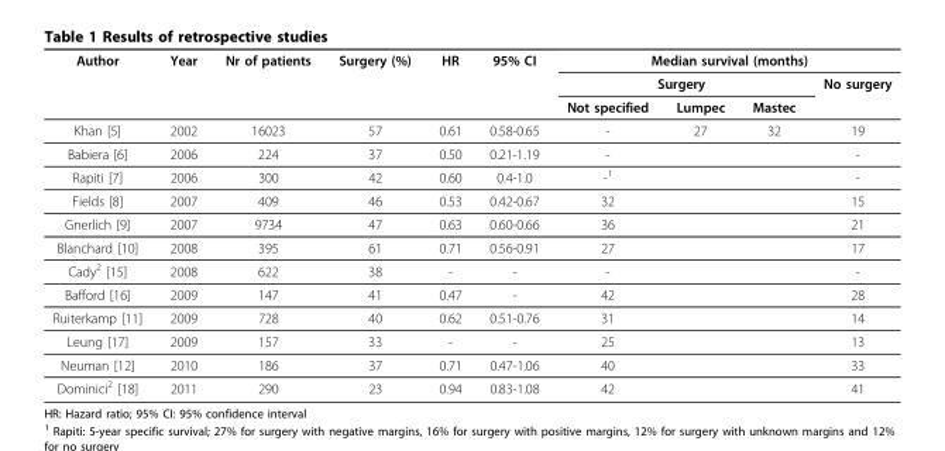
<table><thead><tr><td rowspan="3">Author</td><td rowspan="3">Year</td><td rowspan="3">Nr of patients</td><td rowspan="3">Surgery (%)</td><td rowspan="3">HR</td><td rowspan="3">95% CI</td><td colspan="4">Median survival (months)</td></tr><tr><td colspan="3">Surgery</td><td rowspan="2">No surgery</td></tr><tr><td>Not specified</td><td>Lumpec</td><td>Mastec</td></tr></thead><tbody><tr><td>Khan [5]</td><td>2002</td><td>16023</td><td>57</td><td>0.61</td><td>0.58-0.65</td><td>-</td><td>27</td><td>32</td><td>19</td></tr><tr><td>Babiera [6]</td><td>2006</td><td>224</td><td>37</td><td>0.50</td><td>0.21-1.19</td><td>-</td><td></td><td></td><td>-</td></tr><tr><td>Rapiti [7]</td><td>2006</td><td>300</td><td>42</td><td>0.60</td><td>0.4-1.0</td><td>-<sup>1</sup></td><td></td><td></td><td>-</td></tr><tr><td>Fields [8]</td><td>2007</td><td>409</td><td>46</td><td>0.53</td><td>0.42-0.67</td><td>32</td><td></td><td></td><td>15</td></tr><tr><td>Gnerlich [9]</td><td>2007</td><td>9734</td><td>47</td><td>0.63</td><td>0.60-0.66</td><td>36</td><td></td><td></td><td>21</td></tr><tr><td>Blanchard [10]</td><td>2008</td><td>395</td><td>61</td><td>0.71</td><td>0.56-0.91</td><td>27</td><td></td><td></td><td>17</td></tr><tr><td>Cady<sup>2</sup> [15]</td><td>2008</td><td>622</td><td>38</td><td>-</td><td>-</td><td>-</td><td></td><td></td><td>-</td></tr><tr><td>Bafford [16]</td><td>2009</td><td>147</td><td>41</td><td>0.47</td><td>-</td><td>42</td><td></td><td></td><td>28</td></tr><tr><td>Ruiterkamp [11]</td><td>2009</td><td>728</td><td>40</td><td>0.62</td><td>0.51-0.76</td><td>31</td><td></td><td></td><td>14</td></tr><tr><td>Leung [17]</td><td>2009</td><td>157</td><td>33</td><td>-</td><td>-</td><td>25</td><td></td><td></td><td>13</td></tr><tr><td>Neuman [12]</td><td>2010</td><td>186</td><td>37</td><td>0.71</td><td>0.47-1.06</td><td>40</td><td></td><td></td><td>33</td></tr><tr><td>Dominici<sup>2</sup> [18]</td><td>2011</td><td>290</td><td>23</td><td>0.94</td><td>0.83-1.08</td><td>42</td><td></td><td></td><td>41</td></tr></tbody></table>